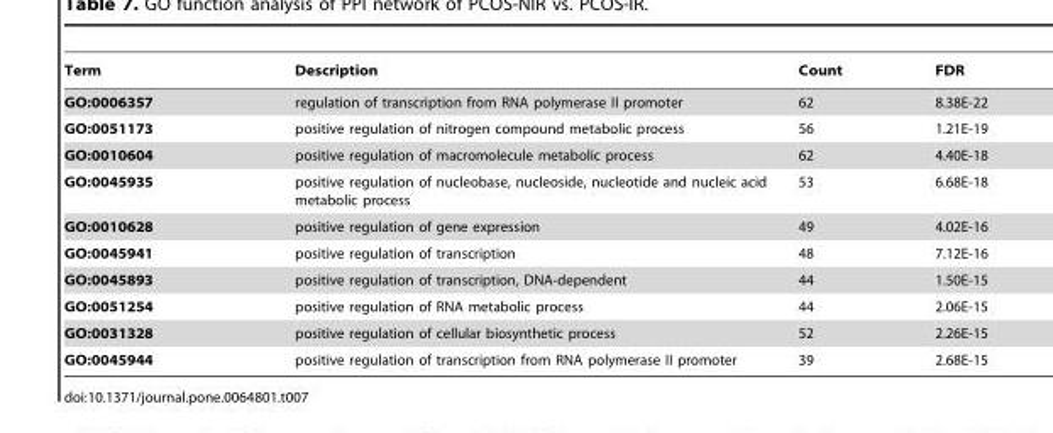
<table><thead><tr><td>Term</td><td>Description</td><td>Count</td><td>FDR</td></tr></thead><tbody><tr><td>GO:0006357</td><td>regulation of transcription from RNA polymerase II promoter</td><td>62</td><td>8.38E-22</td></tr><tr><td>GO:0051173</td><td>positive regulation of nitrogen compound metabolic process</td><td>56</td><td>1.21E-19</td></tr><tr><td>GO:0010604</td><td>positive regulation of macromolecule metabolic process</td><td>62</td><td>4.40E-18</td></tr><tr><td>GO:0045935</td><td>positive regulation of nucleobase, nucleoside, nucleotide and nucleic acid metabolic process</td><td>53</td><td>6.68E-18</td></tr><tr><td>GO:0010628</td><td>positive regulation of gene expression</td><td>49</td><td>4.02E-16</td></tr><tr><td>GO:0045941</td><td>positive regulation of transcription</td><td>48</td><td>7.12E-16</td></tr><tr><td>GO:0045893</td><td>positive regulation of transcription, DNA-dependent</td><td>44</td><td>1.50E-15</td></tr><tr><td>GO:0051254</td><td>positive regulation of RNA metabolic process</td><td>44</td><td>2.06E-15</td></tr><tr><td>GO:0031328</td><td>positive regulation of cellular biosynthetic process</td><td>52</td><td>2.26E-15</td></tr><tr><td>GO:0045944</td><td>positive regulation of transcription from RNA polymerase II promoter</td><td>39</td><td>2.68E-15</td></tr></tbody></table>